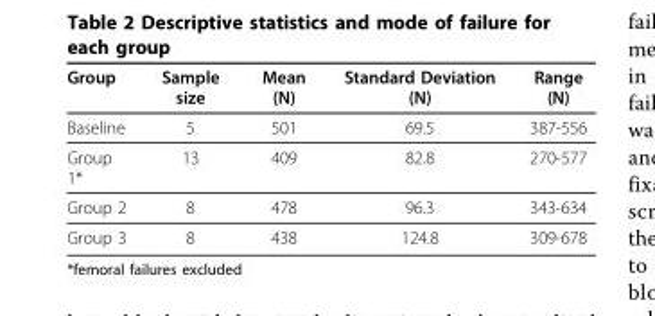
<table><thead><tr><td>Group</td><td>Sample size</td><td>Mean (N)</td><td>Standard Deviation (N)</td><td>Range (N)</td></tr></thead><tbody><tr><td>Baseline</td><td>5</td><td>501</td><td>69.5</td><td>387-556</td></tr><tr><td>Group 1*</td><td>13</td><td>409</td><td>82.8</td><td>270-577</td></tr><tr><td>Group 2</td><td>8</td><td>478</td><td>96.3</td><td>343-634</td></tr><tr><td>Group 3</td><td>8</td><td>438</td><td>124.8</td><td>309-678</td></tr></tbody></table>